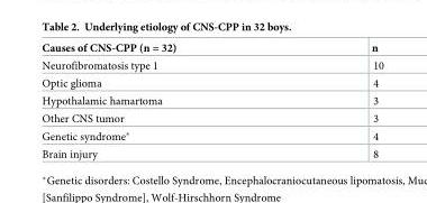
<table><thead><tr><td>Causes of CNS-CPP (n = 32)</td><td>n</td></tr></thead><tbody><tr><td>Neurofibromatosis type 1</td><td>10</td></tr><tr><td>Optic glioma</td><td>4</td></tr><tr><td>Hypothalamic hamartoma</td><td>3</td></tr><tr><td>Other CNS tumor</td><td>3</td></tr><tr><td>Genetic syndrome*</td><td>4</td></tr><tr><td>Brain injury</td><td>8</td></tr></tbody></table>